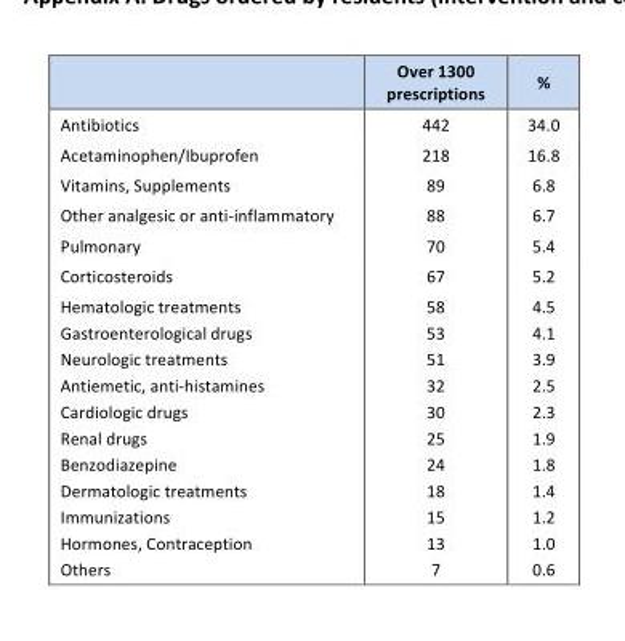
<table><thead><tr><td></td><td>Over 1300 prescriptions</td><td>%</td></tr></thead><tbody><tr><td>Antibiotics</td><td>442</td><td>34.0</td></tr><tr><td>Acetaminophen/Ibuprofen</td><td>218</td><td>16.8</td></tr><tr><td>Vitamins, Supplements</td><td>89</td><td>6.8</td></tr><tr><td>Other analgesic or anti-inflammatory</td><td>88</td><td>6.7</td></tr><tr><td>Pulmonary</td><td>70</td><td>5.4</td></tr><tr><td>Corticosteroids</td><td>67</td><td>5.2</td></tr><tr><td>Hematologic treatments</td><td>58</td><td>4.5</td></tr><tr><td>Gastroenterological drugs</td><td>53</td><td>4.1</td></tr><tr><td>Neurologic treatments</td><td>51</td><td>3.9</td></tr><tr><td>Antiemetic, anti-histamines</td><td>32</td><td>2.5</td></tr><tr><td>Cardiologic drugs</td><td>30</td><td>2.3</td></tr><tr><td>Renal drugs</td><td>25</td><td>1.9</td></tr><tr><td>Benzodiazepine</td><td>24</td><td>1.8</td></tr><tr><td>Dermatologic treatments</td><td>18</td><td>1.4</td></tr><tr><td>Immunizations</td><td>15</td><td>1.2</td></tr><tr><td>Hormones, Contraception</td><td>13</td><td>1.0</td></tr><tr><td>Others</td><td>7</td><td>0.6</td></tr></tbody></table>